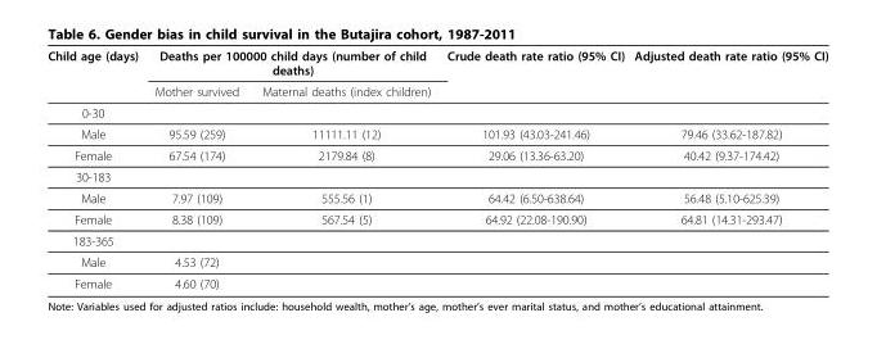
<table><thead><tr><td rowspan="2">Child age (days)</td><td colspan="2">Deaths per 100000 child days (number of child deaths)</td><td rowspan="2">Crude death rate ratio (95% CI)</td><td rowspan="2">Adjusted death rate ratio (95% CI)</td></tr><tr><td>Mother survived</td><td>Maternal deaths (index children)</td></tr></thead><tbody><tr><td colspan="5">0-30</td></tr><tr><td>Male</td><td>95.59 (259)</td><td>11111.11 (12)</td><td>101.93 (43.03-241.46)</td><td>79.46 (33.62-187.82)</td></tr><tr><td>Female</td><td>67.54 (174)</td><td>2179.84 (8)</td><td>29.06 (13.36-63.20)</td><td>40.42 (9.37-174.42)</td></tr><tr><td colspan="5">30-183</td></tr><tr><td>Male</td><td>7.97 (109)</td><td>555.56 (1)</td><td>64.42 (6.50-638.64)</td><td>56.48 (5.10-625.39)</td></tr><tr><td>Female</td><td>8.38 (109)</td><td>567.54 (5)</td><td>64.92 (22.08-190.90)</td><td>64.81 (14.31-293.47)</td></tr><tr><td colspan="5">183-365</td></tr><tr><td>Male</td><td>4.53 (72)</td><td></td><td></td><td></td></tr><tr><td>Female</td><td>4.60 (70)</td><td></td><td></td><td></td></tr></tbody></table>